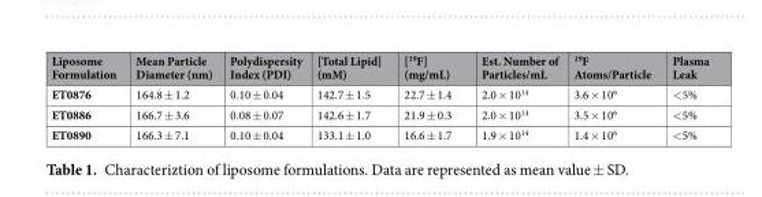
<table><thead><tr><td>Liposome Formulation</td><td>Mean Particle Diameter (nm)</td><td>Polydispersity Index (PDI)</td><td>[Total Lipid] (mM)</td><td>[<sup>19</sup>F] (mg/mL)</td><td>Est. Number of Particles/mL</td><td><sup>19</sup>F Atoms/Particle</td><td>Plasma Leak</td></tr></thead><tbody><tr><td>ET0876</td><td>164.8 ± 1.2</td><td>0.10 ± 0.04</td><td>142.7 ± 1.5</td><td>22.7 ± 1.4</td><td>2.0 × 10<sup>14</sup></td><td>3.6 × 10<sup>6</sup></td><td>&lt;5%</td></tr><tr><td>ET0886</td><td>166.7 ± 3.6</td><td>0.08 ± 0.07</td><td>142.6 ± 1.7</td><td>21.9 ± 0.3</td><td>2.0 × 10<sup>14</sup></td><td>3.5 × 10<sup>6</sup></td><td>&lt;5%</td></tr><tr><td>ET0890</td><td>166.3 ± 7.1</td><td>0.10 ± 0.04</td><td>133.1 ± 1.0</td><td>16.6 ± 1.7</td><td>1.9 × 10<sup>14</sup></td><td>1.4 × 10<sup>6</sup></td><td>&lt;5%</td></tr></tbody></table>